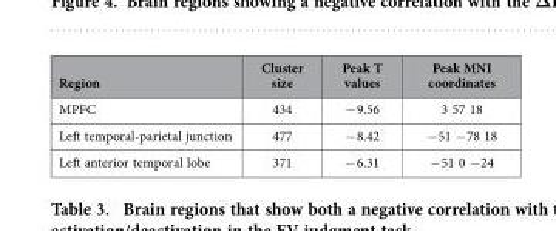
<table><thead><tr><td>Region</td><td>Cluster size</td><td>Peak T values</td><td>Peak MNI coordinates</td></tr></thead><tbody><tr><td>MPFC</td><td>434</td><td>− 9.56</td><td>3 57 18</td></tr><tr><td>Left temporal-parietal junction</td><td>477</td><td>− 8.42</td><td>− 51 − 78 18</td></tr><tr><td>Left anterior temporal lobe</td><td>371</td><td>− 6.31</td><td>− 51 0 − 24</td></tr></tbody></table>